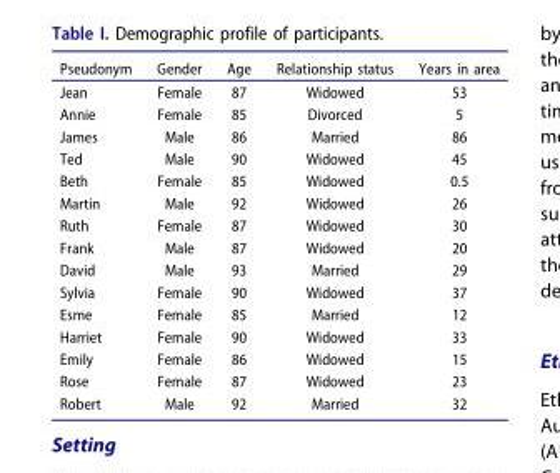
<table><thead><tr><td>Pseudonym</td><td>Gender</td><td>Age</td><td>Relationship status</td><td>Years in area</td></tr></thead><tbody><tr><td>Jean</td><td>Female</td><td>87</td><td>Widowed</td><td>53</td></tr><tr><td>Annie</td><td>Female</td><td>85</td><td>Divorced</td><td>5</td></tr><tr><td>James</td><td>Male</td><td>86</td><td>Married</td><td>86</td></tr><tr><td>Ted</td><td>Male</td><td>90</td><td>Widowed</td><td>45</td></tr><tr><td>Beth</td><td>Female</td><td>85</td><td>Widowed</td><td>0.5</td></tr><tr><td>Martin</td><td>Male</td><td>92</td><td>Widowed</td><td>26</td></tr><tr><td>Ruth</td><td>Female</td><td>87</td><td>Widowed</td><td>30</td></tr><tr><td>Frank</td><td>Male</td><td>87</td><td>Widowed</td><td>20</td></tr><tr><td>David</td><td>Male</td><td>93</td><td>Married</td><td>29</td></tr><tr><td>Sylvia</td><td>Female</td><td>90</td><td>Widowed</td><td>37</td></tr><tr><td>Esme</td><td>Female</td><td>85</td><td>Married</td><td>12</td></tr><tr><td>Harriet</td><td>Female</td><td>90</td><td>Widowed</td><td>33</td></tr><tr><td>Emily</td><td>Female</td><td>86</td><td>Widowed</td><td>15</td></tr><tr><td>Rose</td><td>Female</td><td>87</td><td>Widowed</td><td>23</td></tr><tr><td>Robert</td><td>Male</td><td>92</td><td>Married</td><td>32</td></tr></tbody></table>